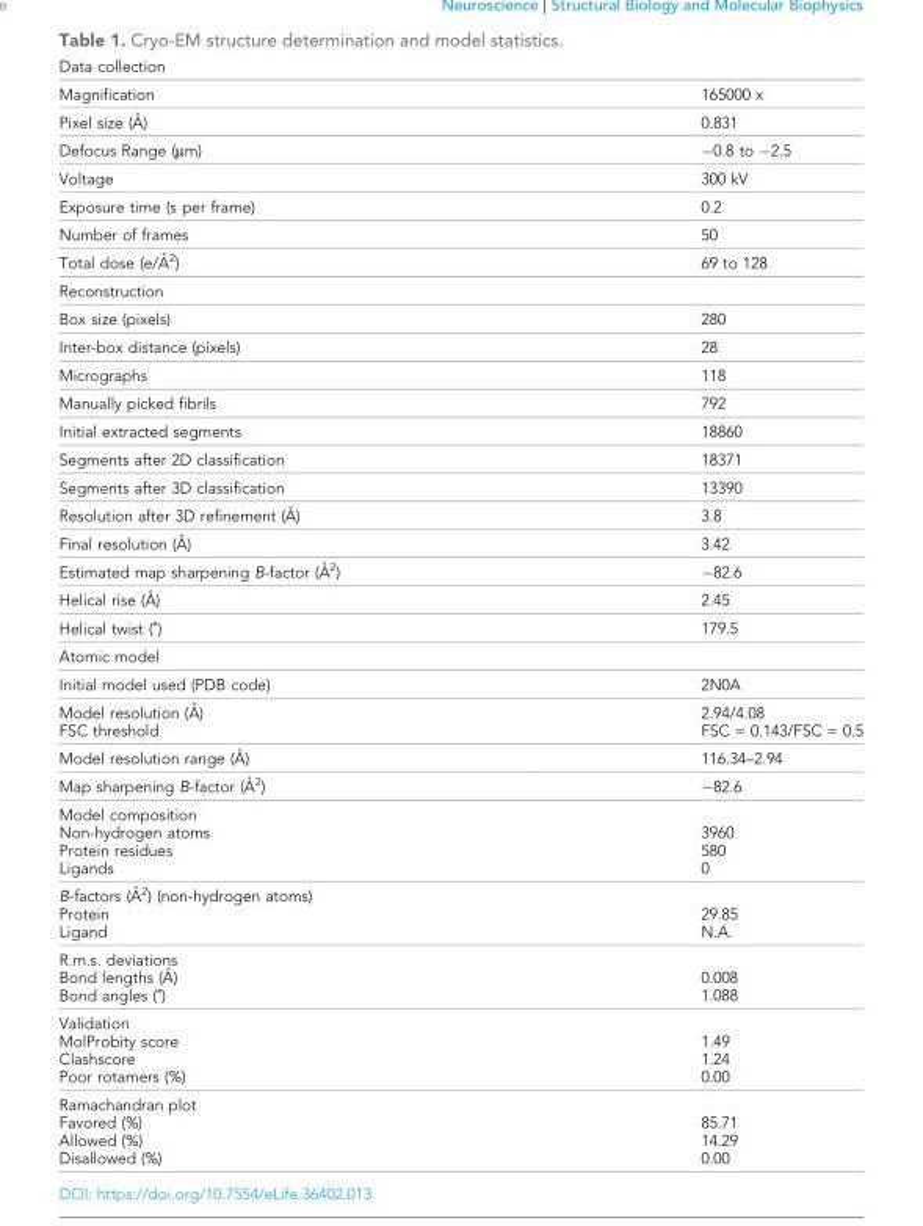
<table><tbody><tr><td colspan="2">Data collection</td></tr><tr><td>Magnification</td><td>165000 x</td></tr><tr><td>Pixel size (A˚ )</td><td>0.831</td></tr><tr><td>Defocus Range (µm)</td><td>−0.8 to −2.5</td></tr><tr><td>Voltage</td><td>300 kV</td></tr><tr><td>Exposure time (s per frame)</td><td>0.2</td></tr><tr><td>Number of frames</td><td>50</td></tr><tr><td>Total dose (e/A˚ 2)</td><td>69 to 128</td></tr><tr><td colspan="2">Reconstruction</td></tr><tr><td>Box size (pixels)</td><td>280</td></tr><tr><td>Inter-box distance (pixels)</td><td>28</td></tr><tr><td>Micrographs</td><td>118</td></tr><tr><td>Manually picked fibrils</td><td>792</td></tr><tr><td>Initial extracted segments</td><td>18860</td></tr><tr><td>Segments after 2D classification</td><td>18371</td></tr><tr><td>Segments after 3D classification</td><td>13390</td></tr><tr><td>Resolution after 3D refinement (A˚ )</td><td>3.8</td></tr><tr><td>Final resolution (A˚ )</td><td>3.42</td></tr><tr><td>Estimated map sharpening B-factor (A˚ 2)</td><td>−82.6</td></tr><tr><td>Helical rise (A˚ )</td><td>2.45</td></tr><tr><td>Helical twist (˚)</td><td>179.5</td></tr><tr><td colspan="2">Atomic model</td></tr><tr><td>Initial model used (PDB code)</td><td>2N0A</td></tr><tr><td>Model resolution (A˚ ) FSC threshold</td><td>2.94/4.08 FSC = 0.143/FSC = 0.5</td></tr><tr><td>Model resolution range (A˚ )</td><td>116.34–2.94</td></tr><tr><td>Map sharpening B-factor (A˚ 2)</td><td>−82.6</td></tr><tr><td>Model composition Non-hydrogen atoms Protein residues Ligands</td><td>3960 580 0</td></tr><tr><td>B-factors (A˚ 2) (non-hydrogen atoms) Protein Ligand</td><td>29.85 N.A.</td></tr><tr><td>R.m.s. deviations Bond lengths (A˚ ) Bond angles (˚)</td><td>0.008 1.088</td></tr><tr><td>Validation MolProbity score Clashscore Poor rotamers (%)</td><td>1.49 1.24 0.00</td></tr><tr><td>Ramachandran plot Favored (%) Allowed (%) Disallowed (%)</td><td>85.71 14.29 0.00</td></tr></tbody></table>